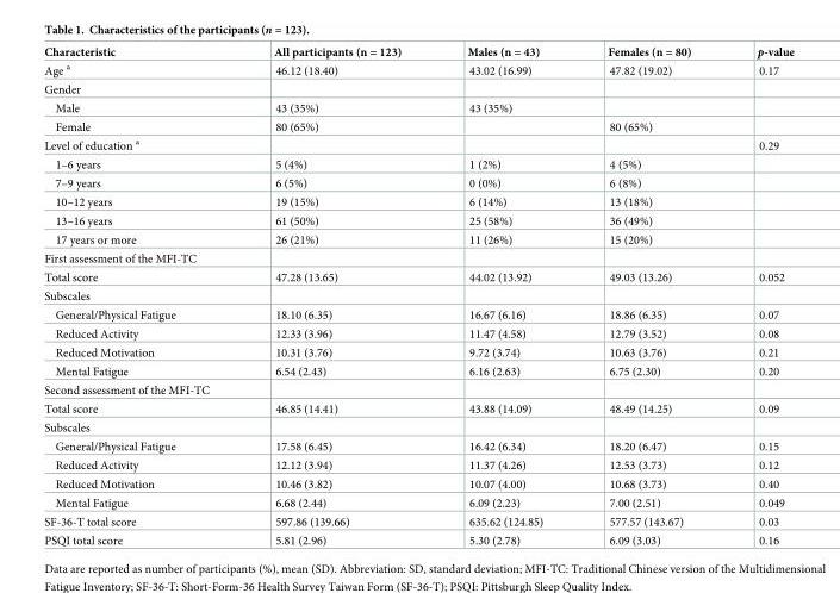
<table><thead><tr><td>Characteristic</td><td>All participants (n = 123)</td><td>Males (n = 43)</td><td>Females (n = 80)</td><td>p-value</td></tr></thead><tbody><tr><td>Age <sup>a</sup></td><td>46.12 (18.40)</td><td>43.02 (16.99)</td><td>47.82 (19.02)</td><td>0.17</td></tr><tr><td colspan="5">Gender</td></tr><tr><td>Male</td><td>43 (35%)</td><td>43 (35%)</td><td></td><td></td></tr><tr><td>Female</td><td>80 (65%)</td><td></td><td>80 (65%)</td><td></td></tr><tr><td>Level of education <sup>a</sup></td><td></td><td></td><td></td><td>0.29</td></tr><tr><td>1–6 years</td><td>5 (4%)</td><td>1 (2%)</td><td>4 (5%)</td><td></td></tr><tr><td>7–9 years</td><td>6 (5%)</td><td>0 (0%)</td><td>6 (8%)</td><td></td></tr><tr><td>10–12 years</td><td>19 (15%)</td><td>6 (14%)</td><td>13 (18%)</td><td></td></tr><tr><td>13–16 years</td><td>61 (50%)</td><td>25 (58%)</td><td>36 (49%)</td><td></td></tr><tr><td>17 years or more</td><td>26 (21%)</td><td>11 (26%)</td><td>15 (20%)</td><td></td></tr><tr><td colspan="5">First assessment of the MFI-TC</td></tr><tr><td>Total score</td><td>47.28 (13.65)</td><td>44.02 (13.92)</td><td>49.03 (13.26)</td><td>0.052</td></tr><tr><td colspan="5">Subscales</td></tr><tr><td>General/Physical Fatigue</td><td>18.10 (6.35)</td><td>16.67 (6.16)</td><td>18.86 (6.35)</td><td>0.07</td></tr><tr><td>Reduced Activity</td><td>12.33 (3.96)</td><td>11.47 (4.58)</td><td>12.79 (3.52)</td><td>0.08</td></tr><tr><td>Reduced Motivation</td><td>10.31 (3.76)</td><td>9.72 (3.74)</td><td>10.63 (3.76)</td><td>0.21</td></tr><tr><td>Mental Fatigue</td><td>6.54 (2.43)</td><td>6.16 (2.63)</td><td>6.75 (2.30)</td><td>0.20</td></tr><tr><td colspan="5">Second assessment of the MFI-TC</td></tr><tr><td>Total score</td><td>46.85 (14.41)</td><td>43.88 (14.09)</td><td>48.49 (14.25)</td><td>0.09</td></tr><tr><td colspan="5">Subscales</td></tr><tr><td>General/Physical Fatigue</td><td>17.58 (6.45)</td><td>16.42 (6.34)</td><td>18.20 (6.47)</td><td>0.15</td></tr><tr><td>Reduced Activity</td><td>12.12 (3.94)</td><td>11.37 (4.26)</td><td>12.53 (3.73)</td><td>0.12</td></tr><tr><td>Reduced Motivation</td><td>10.46 (3.82)</td><td>10.07 (4.00)</td><td>10.68 (3.73)</td><td>0.40</td></tr><tr><td>Mental Fatigue</td><td>6.68 (2.44)</td><td>6.09 (2.23)</td><td>7.00 (2.51)</td><td>0.049</td></tr><tr><td>SF-36-T total score</td><td>597.86 (139.66)</td><td>635.62 (124.85)</td><td>577.57 (143.67)</td><td>0.03</td></tr><tr><td>PSQI total score</td><td>5.81 (2.96)</td><td>5.30 (2.78)</td><td>6.09 (3.03)</td><td>0.16</td></tr></tbody></table>